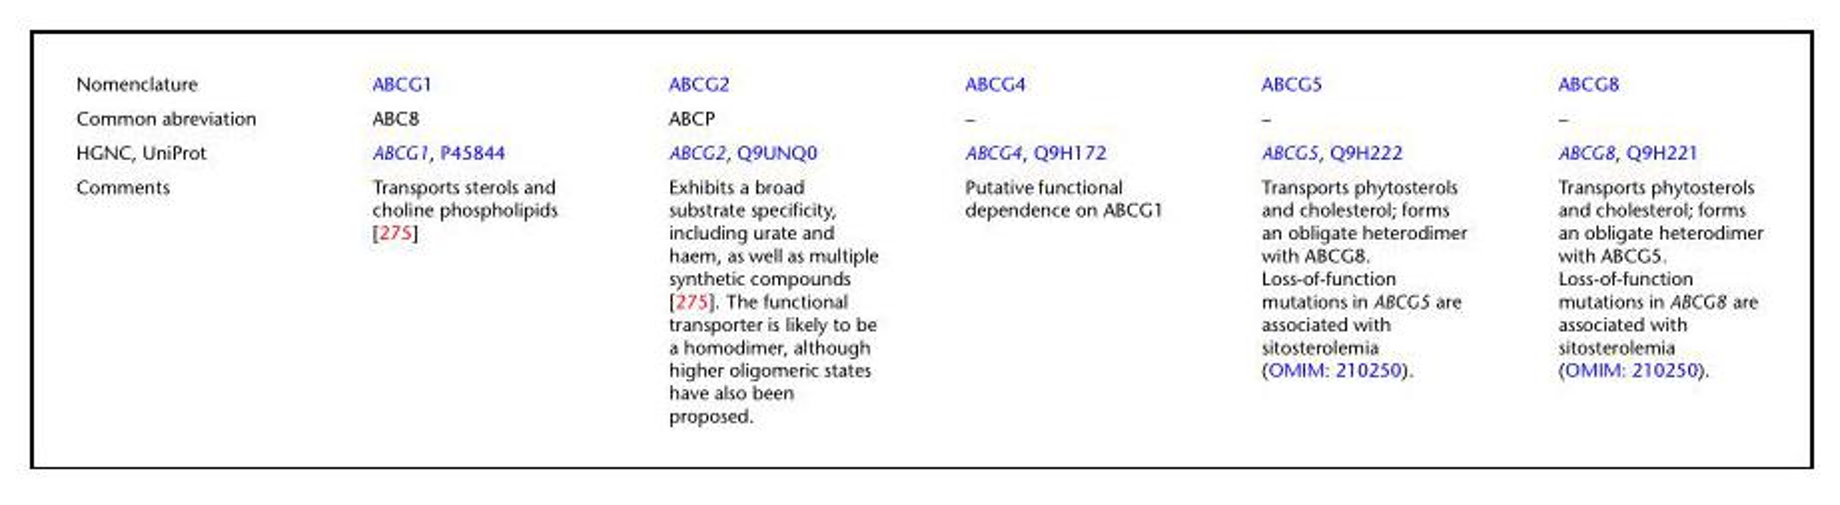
<table><tbody><tr><td>Nomenclature</td><td>ABCG1</td><td>ABCG2</td><td>ABCG4</td><td>ABCG5</td><td>ABCG8</td></tr><tr><td>Common abreviation</td><td>ABC8</td><td>ABCP</td><td>–</td><td>–</td><td>–</td></tr><tr><td>HGNC, UniProt</td><td>ABCG1, P45844</td><td>ABCG2, Q9UNQ0</td><td>ABCG4, Q9H172</td><td>ABCG5, Q9H222</td><td>ABCG8, Q9H221</td></tr><tr><td>Comments</td><td>Transports sterols and choline phospholipids [275]</td><td>Exhibits a broad substrate specificity, including urate and haem, as well as multiple synthetic compounds [275]. The functional transporter is likely to be a homodimer, although higher oligomeric states have also been proposed.</td><td>Putative functional dependence on ABCG1</td><td>Transports phytosterols and cholesterol; forms an obligate heterodimer with ABCG8. Loss-of-function mutations in ABCG5 are associated with sitosterolemia (OMIM: 210250).</td><td>Transports phytosterols and cholesterol; forms an obligate heterodimer with ABCG5. Loss-of-function mutations in ABCG8 are associated with sitosterolemia (OMIM: 210250).</td></tr></tbody></table>